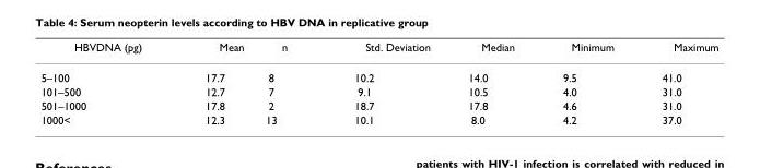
<table><thead><tr><td>HBVDNA (pg)</td><td>Mean</td><td>n</td><td>Std. Deviation</td><td>Median</td><td>Minimum</td><td>Maximum</td></tr></thead><tbody><tr><td>5–100</td><td>17.7</td><td>8</td><td>10.2</td><td>14.0</td><td>9.5</td><td>41.0</td></tr><tr><td>101–500</td><td>12.7</td><td>7</td><td>9.1</td><td>10.5</td><td>4.0</td><td>31.0</td></tr><tr><td>501–1000</td><td>17.8</td><td>2</td><td>18.7</td><td>17.8</td><td>4.6</td><td>31.0</td></tr><tr><td>1000&lt;</td><td>12.3</td><td>13</td><td>10.1</td><td>8.0</td><td>4.2</td><td>37.0</td></tr></tbody></table>